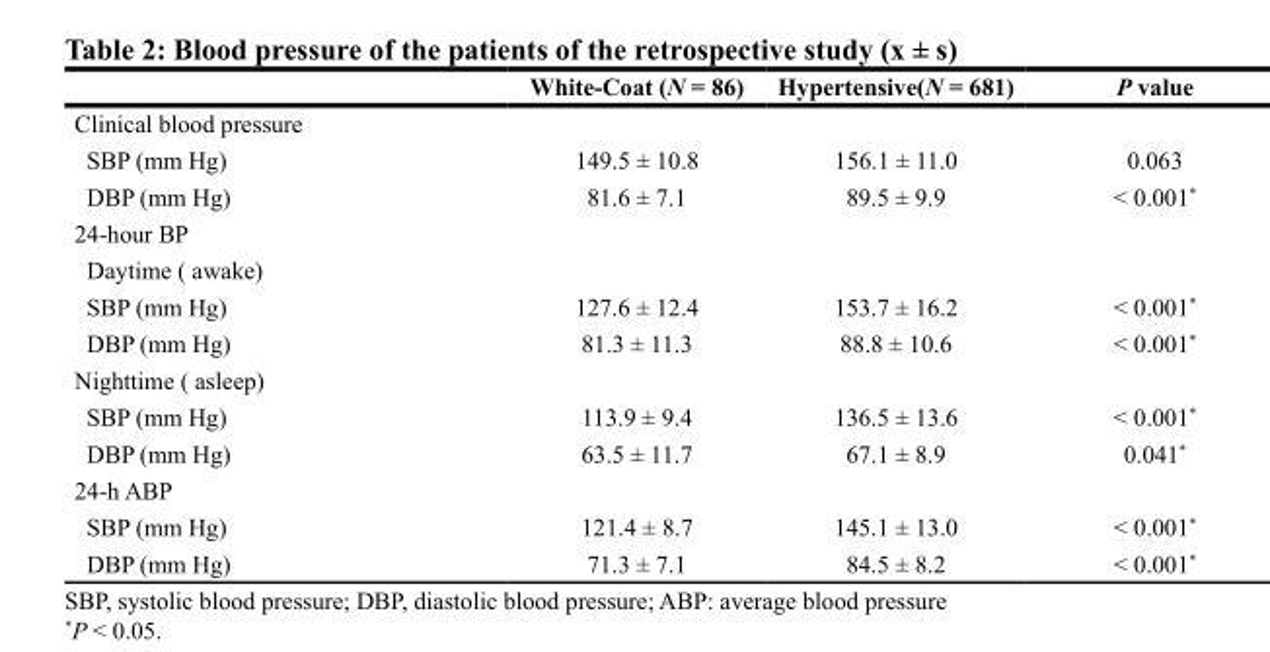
<table><thead><tr><td></td><td>White-Coat (N = 86)</td><td>Hypertensive(N = 681)</td><td>P value</td></tr></thead><tbody><tr><td colspan="4">Clinical blood pressure</td></tr><tr><td>SBP (mm Hg)</td><td>149.5 ± 10.8</td><td>156.1 ± 11.0</td><td>0.063</td></tr><tr><td>DBP (mm Hg)</td><td>81.6 ± 7.1</td><td>89.5 ± 9.9</td><td>&lt; 0.001*</td></tr><tr><td colspan="4">24-hour BP</td></tr><tr><td colspan="4">Daytime ( awake)</td></tr><tr><td>SBP (mm Hg)</td><td>127.6 ± 12.4</td><td>153.7 ± 16.2</td><td>&lt; 0.001*</td></tr><tr><td>DBP (mm Hg)</td><td>81.3 ± 11.3</td><td>88.8 ± 10.6</td><td>&lt; 0.001*</td></tr><tr><td colspan="4">Nighttime ( asleep)</td></tr><tr><td>SBP (mm Hg)</td><td>113.9 ± 9.4</td><td>136.5 ± 13.6</td><td>&lt; 0.001*</td></tr><tr><td>DBP (mm Hg)</td><td>63.5 ± 11.7</td><td>67.1 ± 8.9</td><td>0.041*</td></tr><tr><td colspan="4">24-h ABP</td></tr><tr><td>SBP (mm Hg)</td><td>121.4 ± 8.7</td><td>145.1 ± 13.0</td><td>&lt; 0.001*</td></tr><tr><td>DBP (mm Hg)</td><td>71.3 ± 7.1</td><td>84.5 ± 8.2</td><td>&lt; 0.001*</td></tr></tbody></table>